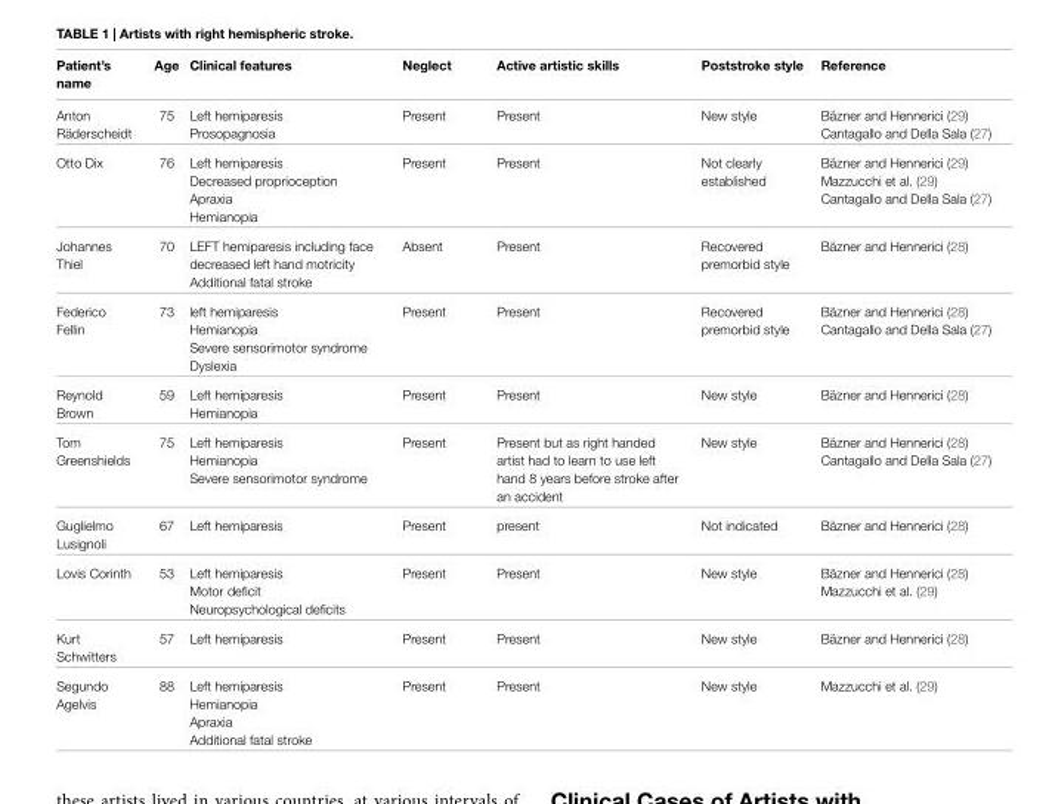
<table><thead><tr><td>Patient’s name</td><td>Age</td><td>Clinical features</td><td>Neglect</td><td>Active artistic skills</td><td>Poststroke style</td><td>Reference</td></tr></thead><tbody><tr><td>Anton Räderscheidt</td><td>75</td><td>Left hemiparesis Prosopagnosia</td><td>Present</td><td>Present</td><td>New style</td><td>Bäzner and Hennerici (29) Cantagallo and Della Sala (27)</td></tr><tr><td>Otto Dix</td><td>76</td><td>Left hemiparesis Decreased proprioception Apraxia Hemianopia</td><td>Present</td><td>Present</td><td>Not clearly established</td><td>Bäzner and Hennerici (29) Mazzucchi et al. (29) Cantagallo and Della Sala (27)</td></tr><tr><td>Johannes Thiel</td><td>70</td><td>LEFT hemiparesis including face decreased left hand motricity Additional fatal stroke</td><td>Absent</td><td>Present</td><td>Recovered premorbid style</td><td>Bäzner and Hennerici (28)</td></tr><tr><td>Federico Fellin</td><td>73</td><td>left hemiparesis Hemianopia Severe sensorimotor syndrome Dyslexia</td><td>Present</td><td>Present</td><td>Recovered premorbid style</td><td>Bäzner and Hennerici (28) Cantagallo and Della Sala (27)</td></tr><tr><td>Reynold Brown</td><td>59</td><td>Left hemiparesis Hemianopia</td><td>Present</td><td>Present</td><td>New style</td><td>Bäzner and Hennerici (28)</td></tr><tr><td>Tom Greenshields</td><td>75</td><td>Left hemiparesis Hemianopia Severe sensorimotor syndrome</td><td>Present</td><td>Present but as right handed artist had to learn to use left hand 8 years before stroke after an accident</td><td>New style</td><td>Bäzner and Hennerici (28) Cantagallo and Della Sala (27)</td></tr><tr><td>Guglielmo Lusignoli</td><td>67</td><td>Left hemiparesis</td><td>Present</td><td>present</td><td>Not indicated</td><td>Bäzner and Hennerici (28)</td></tr><tr><td>Lovis Corinth</td><td>53</td><td>Left hemiparesis Motor deficit Neuropsychological deficits</td><td>Present</td><td>Present</td><td>New style</td><td>Bäzner and Hennerici (28) Mazzucchi et al. (29)</td></tr><tr><td>Kurt Schwitters</td><td>57</td><td>Left hemiparesis</td><td>Present</td><td>Present</td><td>New style</td><td>Bäzner and Hennerici (28)</td></tr><tr><td>Segundo Agelvis</td><td>88</td><td>Left hemiparesis Hemianopia Apraxia Additional fatal stroke</td><td>Present</td><td>Present</td><td>New style</td><td>Mazzucchi et al. (29)</td></tr></tbody></table>